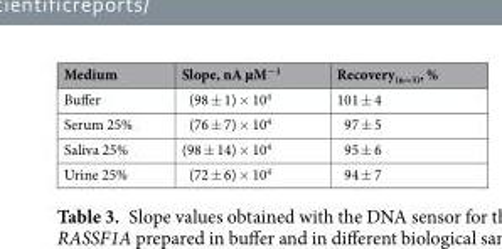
<table><thead><tr><td>Medium</td><td>Slope, nA µM<sup>−1</sup></td><td>Recovery<sub>(n=3)</sub>, %</td></tr></thead><tbody><tr><td>Buffer</td><td>(98 ± 1) × 10<sup>4</sup></td><td>101 ± 4</td></tr><tr><td>Serum 25%</td><td>(76 ± 7) × 10<sup>4</sup></td><td>97 ± 5</td></tr><tr><td>Saliva 25%</td><td>(98 ± 14) × 10<sup>4</sup></td><td>95 ± 6</td></tr><tr><td>Urine 25%</td><td>(72 ± 6) × 10<sup>4</sup></td><td>94 ± 7</td></tr></tbody></table>